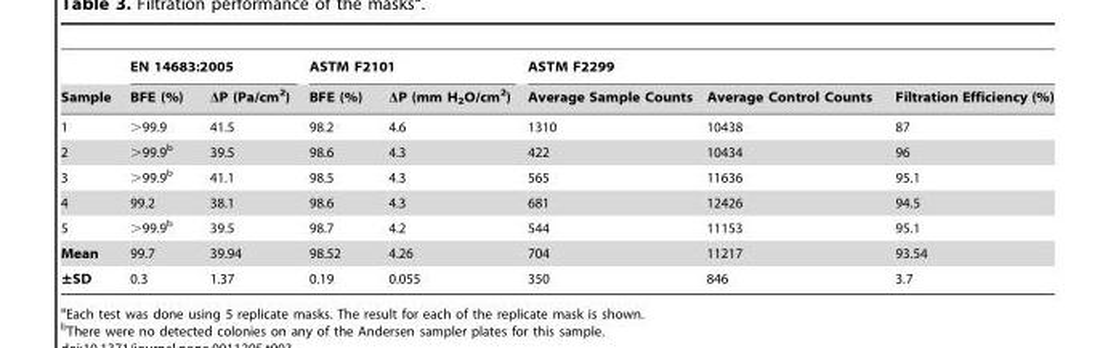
<table><thead><tr><td rowspan="2">Sample</td><td colspan="2">EN 14683:2005</td><td colspan="2">ASTM F2101</td><td colspan="3">ASTM F2299</td></tr><tr><td>BFE (%)</td><td>ΔP (Pa/cm<sup>2</sup>)</td><td>BFE (%)</td><td>ΔP (mm H<sub>2</sub>O/cm<sup>2</sup>)</td><td>Average Sample Counts</td><td>Average Control Counts</td><td>Filtration Efficiency (%)</td></tr></thead><tbody><tr><td>1</td><td>&gt;99.9</td><td>41.5</td><td>98.2</td><td>4.6</td><td>1310</td><td>10438</td><td>87</td></tr><tr><td>2</td><td>&gt;99.9<sup>b</sup></td><td>39.5</td><td>98.6</td><td>4.3</td><td>422</td><td>10434</td><td>96</td></tr><tr><td>3</td><td>&gt;99.9<sup>b</sup></td><td>41.1</td><td>98.5</td><td>4.3</td><td>565</td><td>11636</td><td>95.1</td></tr><tr><td>4</td><td>99.2</td><td>38.1</td><td>98.6</td><td>4.3</td><td>681</td><td>12426</td><td>94.5</td></tr><tr><td>5</td><td>&gt;99.9<sup>b</sup></td><td>39.5</td><td>98.7</td><td>4.2</td><td>544</td><td>11153</td><td>95.1</td></tr><tr><td>Mean</td><td>99.7</td><td>39.94</td><td>98.52</td><td>4.26</td><td>704</td><td>11217</td><td>93.54</td></tr><tr><td>±SD</td><td>0.3</td><td>1.37</td><td>0.19</td><td>0.055</td><td>350</td><td>846</td><td>3.7</td></tr></tbody></table>